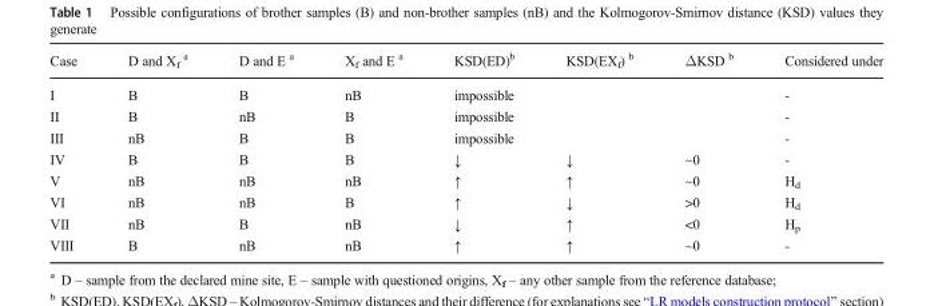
<table><thead><tr><td>Case</td><td>D and X<sub>f</sub> <sup>a</sup></td><td>D and E <sup>a</sup></td><td>X<sub>f</sub> and E <sup>a</sup></td><td>KSD(ED)<sup>b</sup></td><td>KSD(EX<sub>f</sub>) <sup>b</sup></td><td>ΔKSD <sup>b</sup></td><td>Considered under</td></tr></thead><tbody><tr><td>I</td><td>B</td><td>B</td><td>nB</td><td colspan="3">impossible</td><td>-</td></tr><tr><td>II</td><td>B</td><td>nB</td><td>B</td><td colspan="3">impossible</td><td>-</td></tr><tr><td>III</td><td>nB</td><td>B</td><td>B</td><td colspan="3">impossible</td><td>-</td></tr><tr><td>IV</td><td>B</td><td>B</td><td>B</td><td>↓</td><td>↓</td><td>~0</td><td>-</td></tr><tr><td>V</td><td>nB</td><td>nB</td><td>nB</td><td>↑</td><td>↑</td><td>~0</td><td>H<sub>d</sub></td></tr><tr><td>VI</td><td>nB</td><td>nB</td><td>B</td><td>↑</td><td>↓</td><td>&gt;0</td><td>H<sub>d</sub></td></tr><tr><td>VII</td><td>nB</td><td>B</td><td>nB</td><td>↓</td><td>↑</td><td>&lt;0</td><td>H<sub>p</sub></td></tr><tr><td>VIII</td><td>B</td><td>nB</td><td>nB</td><td>↑</td><td>↑</td><td>~0</td><td>-</td></tr></tbody></table>